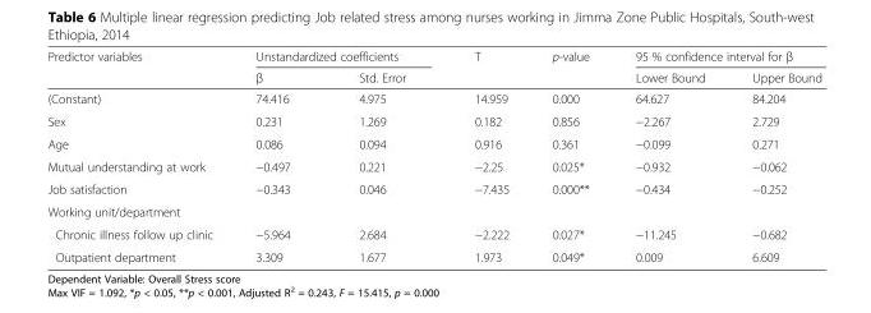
<table><thead><tr><td rowspan="2">Predictor variables</td><td colspan="2">Unstandardized coefficients</td><td rowspan="2">T</td><td rowspan="2">p-value</td><td colspan="2">95 % confidence interval for β</td></tr><tr><td>β</td><td>Std. Error</td><td>Lower Bound</td><td>Upper Bound</td></tr></thead><tbody><tr><td>(Constant)</td><td>74.416</td><td>4.975</td><td>14.959</td><td>0.000</td><td>64.627</td><td>84.204</td></tr><tr><td>Sex</td><td>0.231</td><td>1.269</td><td>0.182</td><td>0.856</td><td>−2.267</td><td>2.729</td></tr><tr><td>Age</td><td>0.086</td><td>0.094</td><td>0.916</td><td>0.361</td><td>−0.099</td><td>0.271</td></tr><tr><td>Mutual understanding at work</td><td>−0.497</td><td>0.221</td><td>−2.25</td><td>0.025*</td><td>−0.932</td><td>−0.062</td></tr><tr><td>Job satisfaction</td><td>−0.343</td><td>0.046</td><td>−7.435</td><td>0.000**</td><td>−0.434</td><td>−0.252</td></tr><tr><td colspan="7">Working unit/department</td></tr><tr><td>Chronic illness follow up clinic</td><td>−5.964</td><td>2.684</td><td>−2.222</td><td>0.027*</td><td>−11.245</td><td>−0.682</td></tr><tr><td>Outpatient department</td><td>3.309</td><td>1.677</td><td>1.973</td><td>0.049*</td><td>0.009</td><td>6.609</td></tr></tbody></table>